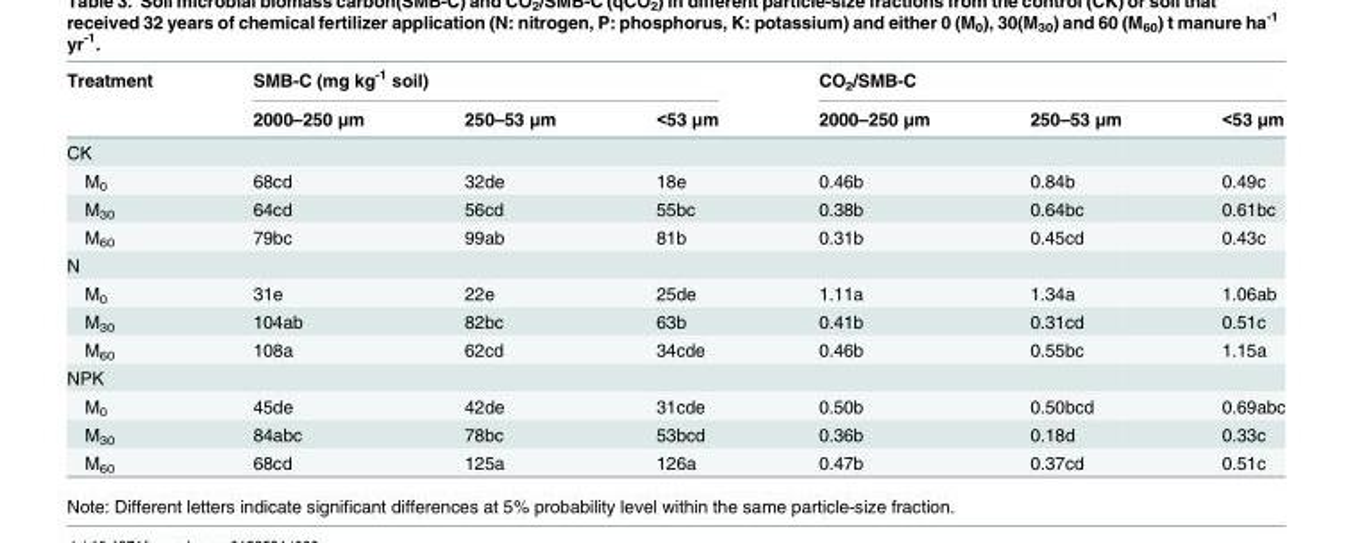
<table><thead><tr><td rowspan="2">Treatment</td><td colspan="3">SMB-C (mg kg<sup>-1</sup> soil)</td><td colspan="3">CO<sub>2</sub>/SMB-C</td></tr><tr><td>2000–250 μm</td><td>250–53 μm</td><td>&lt;53 μm</td><td>2000–250 μm</td><td>250–53 μm</td><td>&lt;53 μm</td></tr></thead><tbody><tr><td colspan="7">CK</td></tr><tr><td>M<sub>0</sub></td><td>68cd</td><td>32de</td><td>18e</td><td>0.46b</td><td>0.84b</td><td>0.49c</td></tr><tr><td>M<sub>30</sub></td><td>64cd</td><td>56cd</td><td>55bc</td><td>0.38b</td><td>0.64bc</td><td>0.61bc</td></tr><tr><td>M<sub>60</sub></td><td>79bc</td><td>99ab</td><td>81b</td><td>0.31b</td><td>0.45cd</td><td>0.43c</td></tr><tr><td colspan="7">N</td></tr><tr><td>M<sub>0</sub></td><td>31e</td><td>22e</td><td>25de</td><td>1.11a</td><td>1.34a</td><td>1.06ab</td></tr><tr><td>M<sub>30</sub></td><td>104ab</td><td>82bc</td><td>63b</td><td>0.41b</td><td>0.31cd</td><td>0.51c</td></tr><tr><td>M<sub>60</sub></td><td>108a</td><td>62cd</td><td>34cde</td><td>0.46b</td><td>0.55bc</td><td>1.15a</td></tr><tr><td colspan="7">NPK</td></tr><tr><td>M<sub>0</sub></td><td>45de</td><td>42de</td><td>31cde</td><td>0.50b</td><td>0.50bcd</td><td>0.69abc</td></tr><tr><td>M<sub>30</sub></td><td>84abc</td><td>78bc</td><td>53bcd</td><td>0.36b</td><td>0.18d</td><td>0.33c</td></tr><tr><td>M<sub>60</sub></td><td>68cd</td><td>125a</td><td>126a</td><td>0.47b</td><td>0.37cd</td><td>0.51c</td></tr></tbody></table>